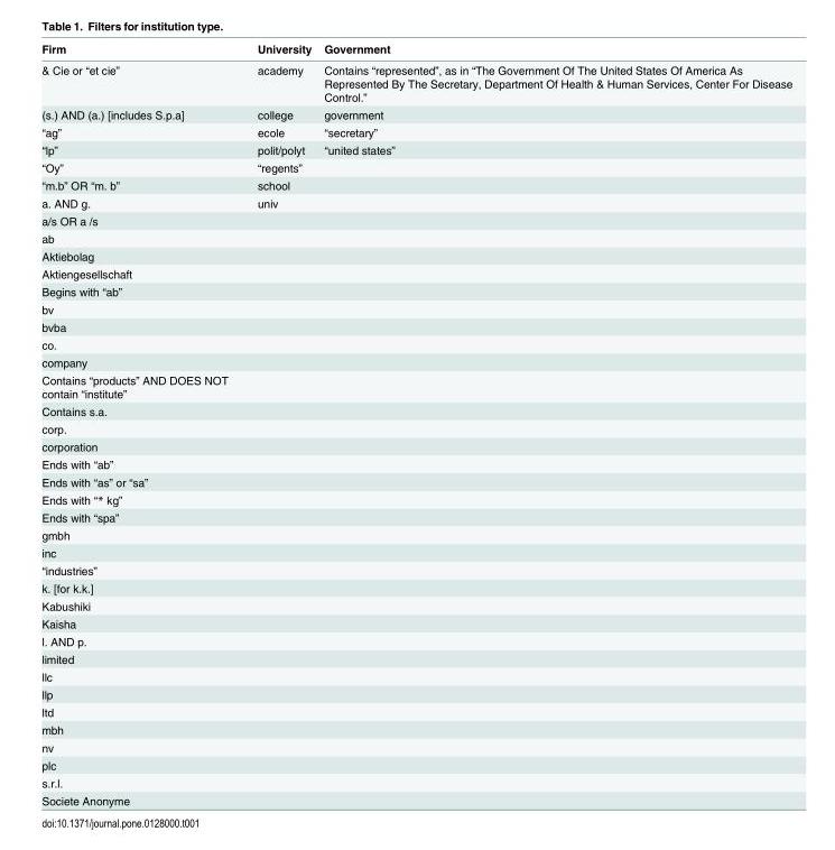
<table><thead><tr><td>Firm</td><td>University</td><td>Government</td></tr></thead><tbody><tr><td>&amp; Cie or “et cie”</td><td>academy</td><td>Contains “represented”, as in “The Government Of The United States Of America As Represented By The Secretary, Department Of Health &amp; Human Services, Center For Disease Control.”</td></tr><tr><td>(s.) AND (a.) [includes S.p.a]</td><td>college</td><td>government</td></tr><tr><td>“ag”</td><td>ecole</td><td>“secretary”</td></tr><tr><td>“lp”</td><td>polit/polyt</td><td>“united states”</td></tr><tr><td>“Oy”</td><td>“regents”</td><td></td></tr><tr><td>“m.b” OR “m. b”</td><td>school</td><td></td></tr><tr><td>a. AND g.</td><td>univ</td><td></td></tr><tr><td colspan="3">a/s OR a /s</td></tr><tr><td colspan="3">ab</td></tr><tr><td colspan="3">Aktiebolag</td></tr><tr><td colspan="3">Aktiengesellschaft</td></tr><tr><td colspan="3">Begins with “ab”</td></tr><tr><td colspan="3">bv</td></tr><tr><td colspan="3">bvba</td></tr><tr><td colspan="3">co.</td></tr><tr><td colspan="3">company</td></tr><tr><td colspan="3">Contains “products” AND DOES NOT contain “institute”</td></tr><tr><td colspan="3">Contains s.a.</td></tr><tr><td colspan="3">corp.</td></tr><tr><td colspan="3">corporation</td></tr><tr><td colspan="3">Ends with “ab”</td></tr><tr><td colspan="3">Ends with “as” or “sa”</td></tr><tr><td colspan="3">Ends with “* kg”</td></tr><tr><td colspan="3">Ends with “spa”</td></tr><tr><td colspan="3">gmbh</td></tr><tr><td colspan="3">inc</td></tr><tr><td colspan="3">“industries”</td></tr><tr><td colspan="3">k. [for k.k.]</td></tr><tr><td colspan="3">Kabushiki</td></tr><tr><td colspan="3">Kaisha</td></tr><tr><td colspan="3">l. AND p.</td></tr><tr><td colspan="3">limited</td></tr><tr><td colspan="3">llc</td></tr><tr><td colspan="3">llp</td></tr><tr><td colspan="3">ltd</td></tr><tr><td colspan="3">mbh</td></tr><tr><td colspan="3">nv</td></tr><tr><td colspan="3">plc</td></tr><tr><td colspan="3">s.r.l.</td></tr><tr><td>Societe Anonyme</td><td></td><td></td></tr></tbody></table>